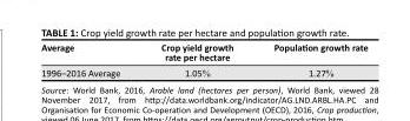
<table><thead><tr><td>Average</td><td>Crop yield growth rate per hectare</td><td>Population growth rate</td></tr></thead><tbody><tr><td>1996–2016 Average</td><td>1.05%</td><td>1.27%</td></tr></tbody></table>